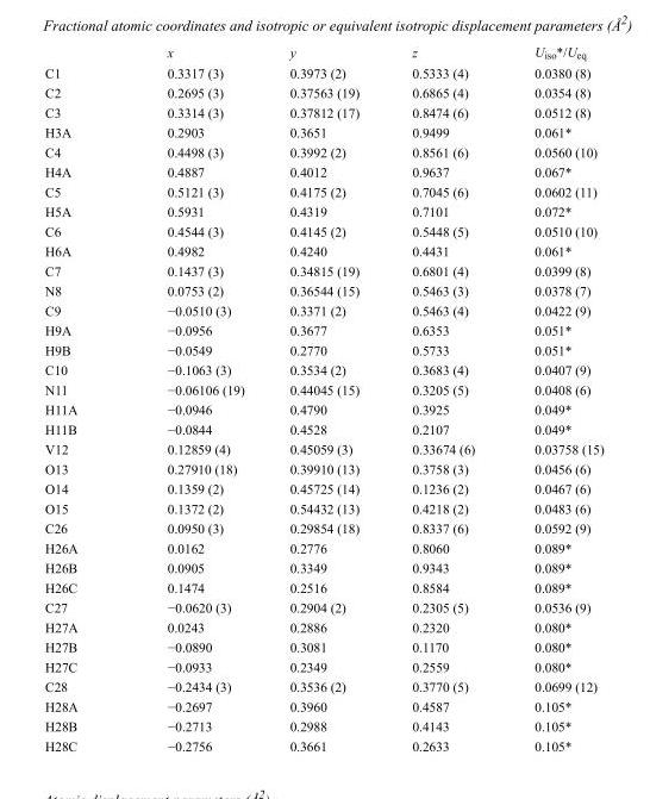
<table><thead><tr><td></td><td>x</td><td>y</td><td>z</td><td>U<sub>iso</sub>*/U<sub>eq</sub></td></tr></thead><tbody><tr><td>C1</td><td>0.3317 (3)</td><td>0.3973 (2)</td><td>0.5333 (4)</td><td>0.0380 (8)</td></tr><tr><td>C2</td><td>0.2695 (3)</td><td>0.37563 (19)</td><td>0.6865 (4)</td><td>0.0354 (8)</td></tr><tr><td>C3</td><td>0.3314 (3)</td><td>0.37812 (17)</td><td>0.8474 (6)</td><td>0.0512 (8)</td></tr><tr><td>H3A</td><td>0.2903</td><td>0.3651</td><td>0.9499</td><td>0.061*</td></tr><tr><td>C4</td><td>0.4498 (3)</td><td>0.3992 (2)</td><td>0.8561 (6)</td><td>0.0560 (10)</td></tr><tr><td>H4A</td><td>0.4887</td><td>0.4012</td><td>0.9637</td><td>0.067*</td></tr><tr><td>C5</td><td>0.5121 (3)</td><td>0.4175 (2)</td><td>0.7045 (6)</td><td>0.0602 (11)</td></tr><tr><td>H5A</td><td>0.5931</td><td>0.4319</td><td>0.7101</td><td>0.072*</td></tr><tr><td>C6</td><td>0.4544 (3)</td><td>0.4145 (2)</td><td>0.5448 (5)</td><td>0.0510 (10)</td></tr><tr><td>H6A</td><td>0.4982</td><td>0.4240</td><td>0.4431</td><td>0.061*</td></tr><tr><td>C7</td><td>0.1437 (3)</td><td>0.34815 (19)</td><td>0.6801 (4)</td><td>0.0399 (8)</td></tr><tr><td>N8</td><td>0.0753 (2)</td><td>0.36544 (15)</td><td>0.5463 (3)</td><td>0.0378 (7)</td></tr><tr><td>C9</td><td>−0.0510 (3)</td><td>0.3371 (2)</td><td>0.5463 (4)</td><td>0.0422 (9)</td></tr><tr><td>H9A</td><td>−0.0956</td><td>0.3677</td><td>0.6353</td><td>0.051*</td></tr><tr><td>H9B</td><td>−0.0549</td><td>0.2770</td><td>0.5733</td><td>0.051*</td></tr><tr><td>C10</td><td>−0.1063 (3)</td><td>0.3534 (2)</td><td>0.3683 (4)</td><td>0.0407 (9)</td></tr><tr><td>N11</td><td>−0.06106 (19)</td><td>0.44045 (15)</td><td>0.3205 (5)</td><td>0.0408 (6)</td></tr><tr><td>H11A</td><td>−0.0946</td><td>0.4790</td><td>0.3925</td><td>0.049*</td></tr><tr><td>H11B</td><td>−0.0844</td><td>0.4528</td><td>0.2107</td><td>0.049*</td></tr><tr><td>V12</td><td>0.12859 (4)</td><td>0.45059 (3)</td><td>0.33674 (6)</td><td>0.03758 (15)</td></tr><tr><td>O13</td><td>0.27910 (18)</td><td>0.39910 (13)</td><td>0.3758 (3)</td><td>0.0456 (6)</td></tr><tr><td>O14</td><td>0.1359 (2)</td><td>0.45725 (14)</td><td>0.1236 (2)</td><td>0.0467 (6)</td></tr><tr><td>O15</td><td>0.1372 (2)</td><td>0.54432 (13)</td><td>0.4218 (2)</td><td>0.0483 (6)</td></tr><tr><td>C26</td><td>0.0950 (3)</td><td>0.29854 (18)</td><td>0.8337 (6)</td><td>0.0592 (9)</td></tr><tr><td>H26A</td><td>0.0162</td><td>0.2776</td><td>0.8060</td><td>0.089*</td></tr><tr><td>H26B</td><td>0.0905</td><td>0.3349</td><td>0.9343</td><td>0.089*</td></tr><tr><td>H26C</td><td>0.1474</td><td>0.2516</td><td>0.8584</td><td>0.089*</td></tr><tr><td>C27</td><td>−0.0620 (3)</td><td>0.2904 (2)</td><td>0.2305 (5)</td><td>0.0536 (9)</td></tr><tr><td>H27A</td><td>0.0243</td><td>0.2886</td><td>0.2320</td><td>0.080*</td></tr><tr><td>H27B</td><td>−0.0890</td><td>0.3081</td><td>0.1170</td><td>0.080*</td></tr><tr><td>H27C</td><td>−0.0933</td><td>0.2349</td><td>0.2559</td><td>0.080*</td></tr><tr><td>C28</td><td>−0.2434 (3)</td><td>0.3536 (2)</td><td>0.3770 (5)</td><td>0.0699 (12)</td></tr><tr><td>H28A</td><td>−0.2697</td><td>0.3960</td><td>0.4587</td><td>0.105*</td></tr><tr><td>H28B</td><td>−0.2713</td><td>0.2988</td><td>0.4143</td><td>0.105*</td></tr><tr><td>H28C</td><td>−0.2756</td><td>0.3661</td><td>0.2633</td><td>0.105*</td></tr></tbody></table>